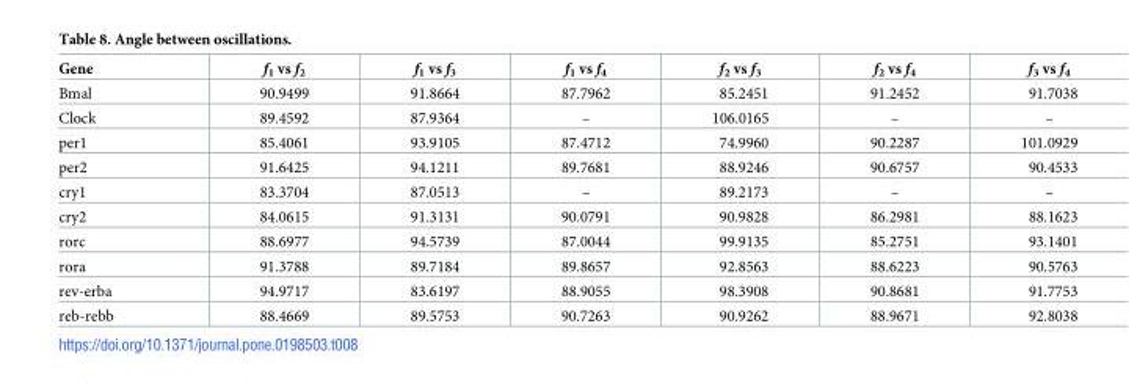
<table><thead><tr><td>Gene</td><td>f<sub>1</sub> vs f<sub>2</sub></td><td>f<sub>1</sub> vs f<sub>3</sub></td><td>f<sub>1</sub> vs f<sub>4</sub></td><td>f<sub>2</sub> vs f<sub>3</sub></td><td>f<sub>2</sub> vs f<sub>4</sub></td><td>f<sub>3</sub> vs f<sub>4</sub></td></tr></thead><tbody><tr><td>Bmal</td><td>90.9499</td><td>91.8664</td><td>87.7962</td><td>85.2451</td><td>91.2452</td><td>91.7038</td></tr><tr><td>Clock</td><td>89.4592</td><td>87.9364</td><td>–</td><td>106.0165</td><td>–</td><td>–</td></tr><tr><td>per1</td><td>85.4061</td><td>93.9105</td><td>87.4712</td><td>74.9960</td><td>90.2287</td><td>101.0929</td></tr><tr><td>per2</td><td>91.6425</td><td>94.1211</td><td>89.7681</td><td>88.9246</td><td>90.6757</td><td>90.4533</td></tr><tr><td>cry1</td><td>83.3704</td><td>87.0513</td><td>–</td><td>89.2173</td><td>–</td><td>–</td></tr><tr><td>cry2</td><td>84.0615</td><td>91.3131</td><td>90.0791</td><td>90.9828</td><td>86.2981</td><td>88.1623</td></tr><tr><td>rorc</td><td>88.6977</td><td>94.5739</td><td>87.0044</td><td>99.9135</td><td>85.2751</td><td>93.1401</td></tr><tr><td>rora</td><td>91.3788</td><td>89.7184</td><td>89.8657</td><td>92.8563</td><td>88.6223</td><td>90.5763</td></tr><tr><td>rev-erba</td><td>94.9717</td><td>83.6197</td><td>88.9055</td><td>98.3908</td><td>90.8681</td><td>91.7753</td></tr><tr><td>reb-rebb</td><td>88.4669</td><td>89.5753</td><td>90.7263</td><td>90.9262</td><td>88.9671</td><td>92.8038</td></tr></tbody></table>